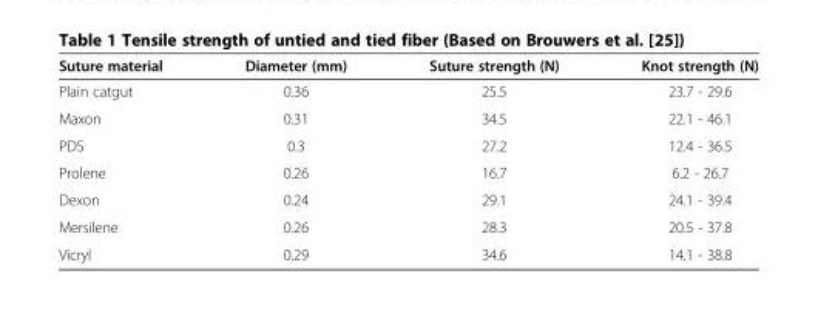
<table><thead><tr><td>Suture material</td><td>Diameter (mm)</td><td>Suture strength (N)</td><td>Knot strength (N)</td></tr></thead><tbody><tr><td>Plain catgut</td><td>0.36</td><td>25.5</td><td>23.7 - 29.6</td></tr><tr><td>Maxon</td><td>0.31</td><td>34.5</td><td>22.1 - 46.1</td></tr><tr><td>PDS</td><td>0.3</td><td>27.2</td><td>12.4 - 36.5</td></tr><tr><td>Prolene</td><td>0.26</td><td>16.7</td><td>6.2 - 26.7</td></tr><tr><td>Dexon</td><td>0.24</td><td>29.1</td><td>24.1 - 39.4</td></tr><tr><td>Mersilene</td><td>0.26</td><td>28.3</td><td>20.5 - 37.8</td></tr><tr><td>Vicryl</td><td>0.29</td><td>34.6</td><td>14.1 - 38.8</td></tr></tbody></table>